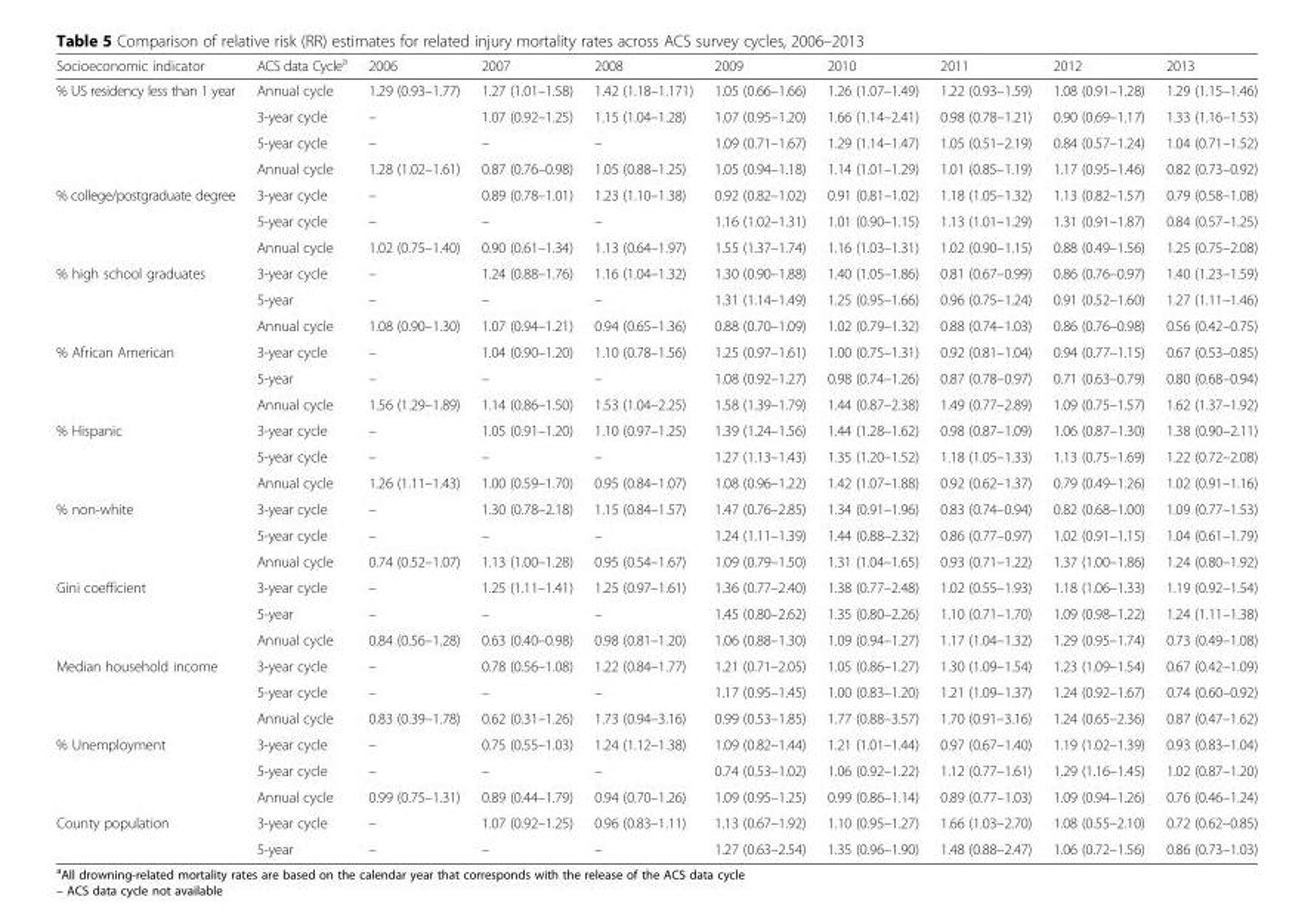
<table><thead><tr><td>Socioeconomic indicator</td><td>ACS data Cycle<sup>a</sup></td><td>2006</td><td>2007</td><td>2008</td><td>2009</td><td>2010</td><td>2011</td><td>2012</td><td>2013</td></tr></thead><tbody><tr><td rowspan="4">% US residency less than 1 year</td><td>Annual cycle</td><td>1.29 (0.93–1.77)</td><td>1.27 (1.01–1.58)</td><td>1.42 (1.18–1.171)</td><td>1.05 (0.66–1.66)</td><td>1.26 (1.07–1.49)</td><td>1.22 (0.93–1.59)</td><td>1.08 (0.91–1.28)</td><td>1.29 (1.15–1.46)</td></tr><tr><td>3-year cycle</td><td>–</td><td>1.07 (0.92–1.25)</td><td>1.15 (1.04–1.28)</td><td>1.07 (0.95–1.20)</td><td>1.66 (1.14–2.41)</td><td>0.98 (0.78–1.21)</td><td>0.90 (0.69–1.17)</td><td>1.33 (1.16–1.53)</td></tr><tr><td>5-year cycle</td><td>–</td><td>–</td><td>–</td><td>1.09 (0.71–1.67)</td><td>1.29 (1.14–1.47)</td><td>1.05 (0.51–2.19)</td><td>0.84 (0.57–1.24)</td><td>1.04 (0.71–1.52)</td></tr><tr><td>Annual cycle</td><td>1.28 (1.02–1.61)</td><td>0.87 (0.76–0.98)</td><td>1.05 (0.88–1.25)</td><td>1.05 (0.94–1.18)</td><td>1.14 (1.01–1.29)</td><td>1.01 (0.85–1.19)</td><td>1.17 (0.95–1.46)</td><td>0.82 (0.73–0.92)</td></tr><tr><td rowspan="3">% college/postgraduate degree</td><td>3-year cycle</td><td>–</td><td>0.89 (0.78–1.01)</td><td>1.23 (1.10–1.38)</td><td>0.92 (0.82–1.02)</td><td>0.91 (0.81–1.02)</td><td>1.18 (1.05–1.32)</td><td>1.13 (0.82–1.57)</td><td>0.79 (0.58–1.08)</td></tr><tr><td>5-year cycle</td><td>–</td><td>–</td><td>–</td><td>1.16 (1.02–1.31)</td><td>1.01 (0.90–1.15)</td><td>1.13 (1.01–1.29)</td><td>1.31 (0.91–1.87)</td><td>0.84 (0.57–1.25)</td></tr><tr><td>Annual cycle</td><td>1.02 (0.75–1.40)</td><td>0.90 (0.61–1.34)</td><td>1.13 (0.64–1.97)</td><td>1.55 (1.37–1.74)</td><td>1.16 (1.03–1.31)</td><td>1.02 (0.90–1.15)</td><td>0.88 (0.49–1.56)</td><td>1.25 (0.75–2.08)</td></tr><tr><td rowspan="3">% high school graduates</td><td>3-year cycle</td><td>–</td><td>1.24 (0.88–1.76)</td><td>1.16 (1.04–1.32)</td><td>1.30 (0.90–1.88)</td><td>1.40 (1.05–1.86)</td><td>0.81 (0.67–0.99)</td><td>0.86 (0.76–0.97)</td><td>1.40 (1.23–1.59)</td></tr><tr><td>5-year</td><td>–</td><td>–</td><td>–</td><td>1.31 (1.14–1.49)</td><td>1.25 (0.95–1.66)</td><td>0.96 (0.75–1.24)</td><td>0.91 (0.52–1.60)</td><td>1.27 (1.11–1.46)</td></tr><tr><td>Annual cycle</td><td>1.08 (0.90–1.30)</td><td>1.07 (0.94–1.21)</td><td>0.94 (0.65–1.36)</td><td>0.88 (0.70–1.09)</td><td>1.02 (0.79–1.32)</td><td>0.88 (0.74–1.03)</td><td>0.86 (0.76–0.98)</td><td>0.56 (0.42–0.75)</td></tr><tr><td rowspan="3">% African American</td><td>3-year cycle</td><td>–</td><td>1.04 (0.90–1.20)</td><td>1.10 (0.78–1.56)</td><td>1.25 (0.97–1.61)</td><td>1.00 (0.75–1.31)</td><td>0.92 (0.81–1.04)</td><td>0.94 (0.77–1.15)</td><td>0.67 (0.53–0.85)</td></tr><tr><td>5-year</td><td>–</td><td>–</td><td>–</td><td>1.08 (0.92–1.27)</td><td>0.98 (0.74–1.26)</td><td>0.87 (0.78–0.97)</td><td>0.71 (0.63–0.79)</td><td>0.80 (0.68–0.94)</td></tr><tr><td>Annual cycle</td><td>1.56 (1.29–1.89)</td><td>1.14 (0.86–1.50)</td><td>1.53 (1.04–2.25)</td><td>1.58 (1.39–1.79)</td><td>1.44 (0.87–2.38)</td><td>1.49 (0.77–2.89)</td><td>1.09 (0.75–1.57)</td><td>1.62 (1.37–1.92)</td></tr><tr><td rowspan="3">% Hispanic</td><td>3-year cycle</td><td>–</td><td>1.05 (0.91–1.20)</td><td>1.10 (0.97–1.25)</td><td>1.39 (1.24–1.56)</td><td>1.44 (1.28–1.62)</td><td>0.98 (0.87–1.09)</td><td>1.06 (0.87–1.30)</td><td>1.38 (0.90–2.11)</td></tr><tr><td>5-year cycle</td><td>–</td><td>–</td><td>–</td><td>1.27 (1.13–1.43)</td><td>1.35 (1.20–1.52)</td><td>1.18 (1.05–1.33)</td><td>1.13 (0.75–1.69)</td><td>1.22 (0.72–2.08)</td></tr><tr><td>Annual cycle</td><td>1.26 (1.11–1.43)</td><td>1.00 (0.59–1.70)</td><td>0.95 (0.84–1.07)</td><td>1.08 (0.96–1.22)</td><td>1.42 (1.07–1.88)</td><td>0.92 (0.62–1.37)</td><td>0.79 (0.49–1.26)</td><td>1.02 (0.91–1.16)</td></tr><tr><td rowspan="3">% non-white</td><td>3-year cycle</td><td>–</td><td>1.30 (0.78–2.18)</td><td>1.15 (0.84–1.57)</td><td>1.47 (0.76–2.85)</td><td>1.34 (0.91–1.96)</td><td>0.83 (0.74–0.94)</td><td>0.82 (0.68–1.00)</td><td>1.09 (0.77–1.53)</td></tr><tr><td>5-year cycle</td><td>–</td><td>–</td><td>–</td><td>1.24 (1.11–1.39)</td><td>1.44 (0.88–2.32)</td><td>0.86 (0.77–0.97)</td><td>1.02 (0.91–1.15)</td><td>1.04 (0.61–1.79)</td></tr><tr><td>Annual cycle</td><td>0.74 (0.52–1.07)</td><td>1.13 (1.00–1.28)</td><td>0.95 (0.54–1.67)</td><td>1.09 (0.79–1.50)</td><td>1.31 (1.04–1.65)</td><td>0.93 (0.71–1.22)</td><td>1.37 (1.00–1.86)</td><td>1.24 (0.80–1.92)</td></tr><tr><td rowspan="3">Gini coefficient</td><td>3-year cycle</td><td>–</td><td>1.25 (1.11–1.41)</td><td>1.25 (0.97–1.61)</td><td>1.36 (0.77–2.40)</td><td>1.38 (0.77–2.48)</td><td>1.02 (0.55–1.93)</td><td>1.18 (1.06–1.33)</td><td>1.19 (0.92–1.54)</td></tr><tr><td>5-year</td><td>–</td><td>–</td><td>–</td><td>1.45 (0.80–2.62)</td><td>1.35 (0.80–2.26)</td><td>1.10 (0.71–1.70)</td><td>1.09 (0.98–1.22)</td><td>1.24 (1.11–1.38)</td></tr><tr><td>Annual cycle</td><td>0.84 (0.56–1.28)</td><td>0.63 (0.40–0.98)</td><td>0.98 (0.81–1.20)</td><td>1.06 (0.88–1.30)</td><td>1.09 (0.94–1.27)</td><td>1.17 (1.04–1.32)</td><td>1.29 (0.95–1.74)</td><td>0.73 (0.49–1.08)</td></tr><tr><td rowspan="3">Median household income</td><td>3-year cycle</td><td>–</td><td>0.78 (0.56–1.08)</td><td>1.22 (0.84–1.77)</td><td>1.21 (0.71–2.05)</td><td>1.05 (0.86–1.27)</td><td>1.30 (1.09–1.54)</td><td>1.23 (1.09–1.54)</td><td>0.67 (0.42–1.09)</td></tr><tr><td>5-year cycle</td><td>–</td><td>–</td><td>–</td><td>1.17 (0.95–1.45)</td><td>1.00 (0.83–1.20)</td><td>1.21 (1.09–1.37)</td><td>1.24 (0.92–1.67)</td><td>0.74 (0.60–0.92)</td></tr><tr><td>Annual cycle</td><td>0.83 (0.39–1.78)</td><td>0.62 (0.31–1.26)</td><td>1.73 (0.94–3.16)</td><td>0.99 (0.53–1.85)</td><td>1.77 (0.88–3.57)</td><td>1.70 (0.91–3.16)</td><td>1.24 (0.65–2.36)</td><td>0.87 (0.47–1.62)</td></tr><tr><td rowspan="3">% Unemployment</td><td>3-year cycle</td><td>–</td><td>0.75 (0.55–1.03)</td><td>1.24 (1.12–1.38)</td><td>1.09 (0.82–1.44)</td><td>1.21 (1.01–1.44)</td><td>0.97 (0.67–1.40)</td><td>1.19 (1.02–1.39)</td><td>0.93 (0.83–1.04)</td></tr><tr><td>5-year cycle</td><td>–</td><td>–</td><td>–</td><td>0.74 (0.53–1.02)</td><td>1.06 (0.92–1.22)</td><td>1.12 (0.77–1.61)</td><td>1.29 (1.16–1.45)</td><td>1.02 (0.87–1.20)</td></tr><tr><td>Annual cycle</td><td>0.99 (0.75–1.31)</td><td>0.89 (0.44–1.79)</td><td>0.94 (0.70–1.26)</td><td>1.09 (0.95–1.25)</td><td>0.99 (0.86–1.14)</td><td>0.89 (0.77–1.03)</td><td>1.09 (0.94–1.26)</td><td>0.76 (0.46–1.24)</td></tr><tr><td rowspan="2">County population</td><td>3-year cycle</td><td>–</td><td>1.07 (0.92–1.25)</td><td>0.96 (0.83–1.11)</td><td>1.13 (0.67–1.92)</td><td>1.10 (0.95–1.27)</td><td>1.66 (1.03–2.70)</td><td>1.08 (0.55–2.10)</td><td>0.72 (0.62–0.85)</td></tr><tr><td>5-year</td><td>–</td><td>–</td><td>–</td><td>1.27 (0.63–2.54)</td><td>1.35 (0.96–1.90)</td><td>1.48 (0.88–2.47)</td><td>1.06 (0.72–1.56)</td><td>0.86 (0.73–1.03)</td></tr></tbody></table>